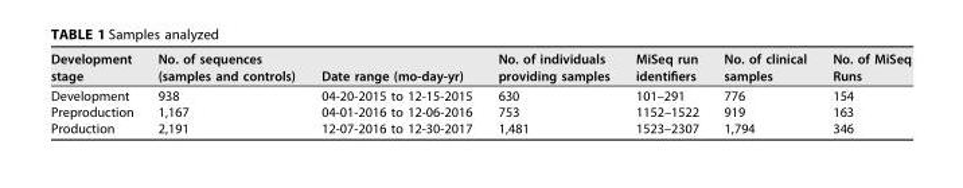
<table><thead><tr><td>Development stage</td><td>No. of sequences (samples and controls)</td><td>Date range (mo-day-yr)</td><td>No. of individuals providing samples</td><td>MiSeq run identifiers</td><td>No. of clinical samples</td><td>No. of MiSeq Runs</td></tr></thead><tbody><tr><td>Development</td><td>938</td><td>04-20-2015 to 12-15-2015</td><td>630</td><td>101–291</td><td>776</td><td>154</td></tr><tr><td>Preproduction</td><td>1,167</td><td>04-01-2016 to 12-06-2016</td><td>753</td><td>1152–1522</td><td>919</td><td>163</td></tr><tr><td>Production</td><td>2,191</td><td>12-07-2016 to 12-30-2017</td><td>1,481</td><td>1523–2307</td><td>1,794</td><td>346</td></tr></tbody></table>